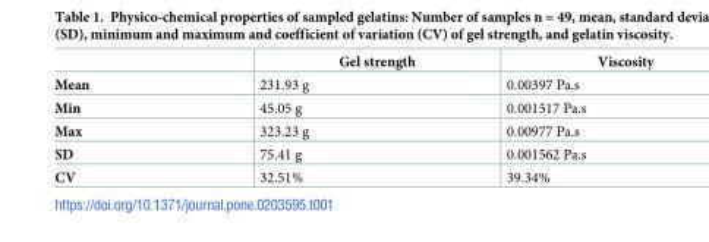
<table><thead><tr><td></td><td>Gel strength</td><td>Viscosity</td></tr></thead><tbody><tr><td>Mean</td><td>231.93 g</td><td>0.00397 Pa.s</td></tr><tr><td>Min</td><td>45.05 g</td><td>0.001517 Pa.s</td></tr><tr><td>Max</td><td>323.23 g</td><td>0.00977 Pa.s</td></tr><tr><td>SD</td><td>75.41 g</td><td>0.001562 Pa.s</td></tr><tr><td>CV</td><td>32.51%</td><td>39.34%</td></tr></tbody></table>